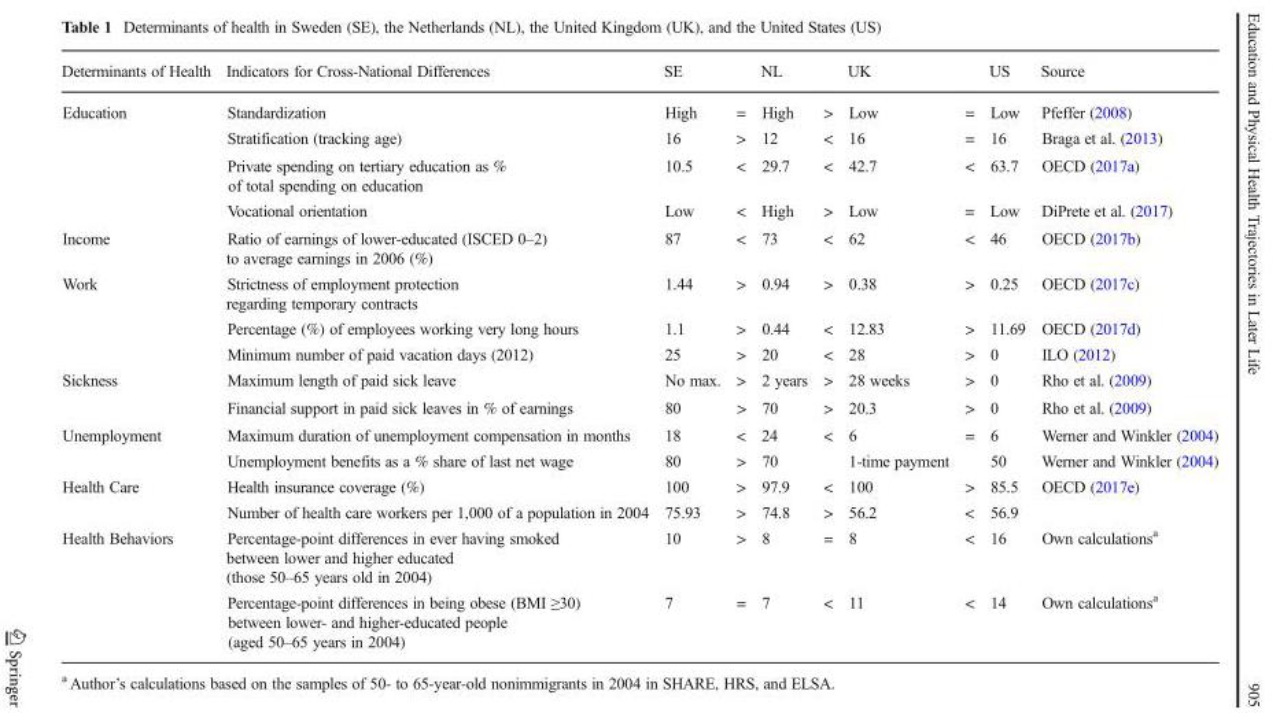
<table><thead><tr><td>Determinants of Health</td><td>Indicators for Cross-National Differences</td><td>SE</td><td></td><td>NL</td><td></td><td>UK</td><td></td><td>US</td><td>Source</td></tr></thead><tbody><tr><td rowspan="4">Education</td><td>Standardization</td><td>High</td><td>=</td><td>High</td><td>&gt;</td><td>Low</td><td>=</td><td>Low</td><td>Pfeffer (2008)</td></tr><tr><td>Stratification (tracking age)</td><td>16</td><td>&gt;</td><td>12</td><td>&lt;</td><td>16</td><td>=</td><td>16</td><td>Braga et al. (2013)</td></tr><tr><td>Private spending on tertiary education as % of total spending on education</td><td>10.5</td><td>&lt;</td><td>29.7</td><td>&lt;</td><td>42.7</td><td>&lt;</td><td>63.7</td><td>OECD (2017a)</td></tr><tr><td>Vocational orientation</td><td>Low</td><td>&lt;</td><td>High</td><td>&gt;</td><td>Low</td><td>=</td><td>Low</td><td>DiPrete et al. (2017)</td></tr><tr><td>Income</td><td>Ratio of earnings of lower-educated (ISCED 0–2) to average earnings in 2006 (%)</td><td>87</td><td>&lt;</td><td>73</td><td>&lt;</td><td>62</td><td>&lt;</td><td>46</td><td>OECD (2017b)</td></tr><tr><td rowspan="3">Work</td><td>Strictness of employment protection regarding temporary contracts</td><td>1.44</td><td>&gt;</td><td>0.94</td><td>&gt;</td><td>0.38</td><td>&gt;</td><td>0.25</td><td>OECD (2017c)</td></tr><tr><td>Percentage (%) of employees working very long hours</td><td>1.1</td><td>&gt;</td><td>0.44</td><td>&lt;</td><td>12.83</td><td>&gt;</td><td>11.69</td><td>OECD (2017d)</td></tr><tr><td>Minimum number of paid vacation days (2012)</td><td>25</td><td>&gt;</td><td>20</td><td>&lt;</td><td>28</td><td>&gt;</td><td>0</td><td>ILO (2012)</td></tr><tr><td rowspan="2">Sickness</td><td>Maximum length of paid sick leave</td><td>No max.</td><td>&gt;</td><td>2 years</td><td>&gt;</td><td>28 weeks</td><td>&gt;</td><td>0</td><td>Rho et al. (2009)</td></tr><tr><td>Financial support in paid sick leaves in % of earnings</td><td>80</td><td>&gt;</td><td>70</td><td>&gt;</td><td>20.3</td><td>&gt;</td><td>0</td><td>Rho et al. (2009)</td></tr><tr><td rowspan="2">Unemployment</td><td>Maximum duration of unemployment compensation in months</td><td>18</td><td>&lt;</td><td>24</td><td>&lt;</td><td>6</td><td>=</td><td>6</td><td>Werner and Winkler (2004)</td></tr><tr><td>Unemployment benefits as a % share of last net wage</td><td>80</td><td>&gt;</td><td>70</td><td></td><td>1-time payment</td><td></td><td>50</td><td>Werner and Winkler (2004)</td></tr><tr><td rowspan="2">Health Care</td><td>Health insurance coverage (%)</td><td>100</td><td>&gt;</td><td>97.9</td><td>&lt;</td><td>100</td><td>&gt;</td><td>85.5</td><td rowspan="2">OECD (2017e)</td></tr><tr><td>Number of health care workers per 1,000 of a population in 2004</td><td>75.93</td><td>&gt;</td><td>74.8</td><td>&gt;</td><td>56.2</td><td>&lt;</td><td>56.9</td></tr><tr><td rowspan="2">Health Behaviors</td><td>Percentage-point differences in ever having smoked between lower and higher educated (those 50–65 years old in 2004)</td><td>10</td><td>&gt;</td><td>8</td><td>=</td><td>8</td><td>&lt;</td><td>16</td><td>Own calculations<sup>a</sup></td></tr><tr><td>Percentage-point differences in being obese (BMI ≥30) between lower- and higher-educated people (aged 50–65 years in 2004)</td><td>7</td><td>=</td><td>7</td><td>&lt;</td><td>11</td><td>&lt;</td><td>14</td><td>Own calculations<sup>a</sup></td></tr></tbody></table>